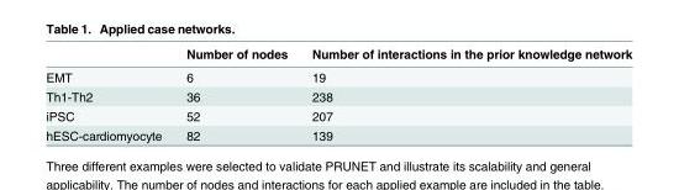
<table><thead><tr><td></td><td>Number of nodes</td><td>Number of interactions in the prior knowledge network</td></tr></thead><tbody><tr><td>EMT</td><td>6</td><td>19</td></tr><tr><td>Th1-Th2</td><td>36</td><td>238</td></tr><tr><td>iPSC</td><td>52</td><td>207</td></tr><tr><td>hESC-cardiomyocyte</td><td>82</td><td>139</td></tr></tbody></table>